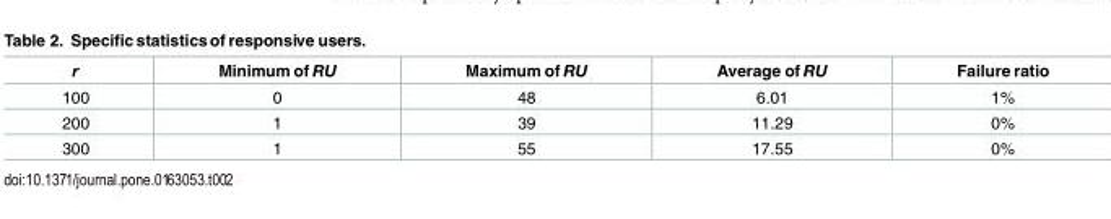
<table><thead><tr><td>r</td><td>Minimum of RU</td><td>Maximum of RU</td><td>Average of RU</td><td>Failure ratio</td></tr></thead><tbody><tr><td>100</td><td>0</td><td>48</td><td>6.01</td><td>1%</td></tr><tr><td>200</td><td>1</td><td>39</td><td>11.29</td><td>0%</td></tr><tr><td>300</td><td>1</td><td>55</td><td>17.55</td><td>0%</td></tr></tbody></table>